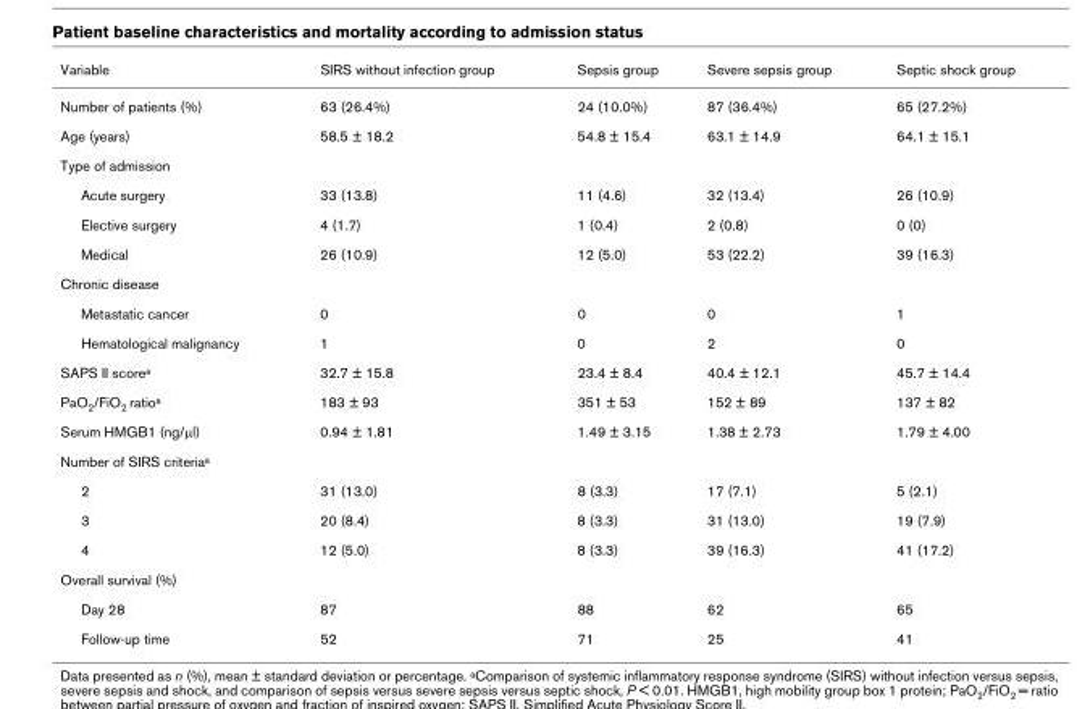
<table><thead><tr><td>Variable</td><td>SIRS without infection group</td><td>Sepsis group</td><td>Severe sepsis group</td><td>Septic shock group</td></tr></thead><tbody><tr><td>Number of patients (%)</td><td>63 (26.4%)</td><td>24 (10.0%)</td><td>87 (36.4%)</td><td>65 (27.2%)</td></tr><tr><td>Age (years)</td><td>58.5 ± 18.2</td><td>54.8 ± 15.4</td><td>63.1 ± 14.9</td><td>64.1 ± 15.1</td></tr><tr><td colspan="5">Type of admission</td></tr><tr><td>Acute surgery</td><td>33 (13.8)</td><td>11 (4.6)</td><td>32 (13.4)</td><td>26 (10.9)</td></tr><tr><td>Elective surgery</td><td>4 (1.7)</td><td>1 (0.4)</td><td>2 (0.8)</td><td>0 (0)</td></tr><tr><td>Medical</td><td>26 (10.9)</td><td>12 (5.0)</td><td>53 (22.2)</td><td>39 (16.3)</td></tr><tr><td colspan="5">Chronic disease</td></tr><tr><td>Metastatic cancer</td><td>0</td><td>0</td><td>0</td><td>1</td></tr><tr><td>Hematological malignancy</td><td>1</td><td>0</td><td>2</td><td>0</td></tr><tr><td>SAPS II score<sup>a</sup></td><td>32.7 ± 15.8</td><td>23.4 ± 8.4</td><td>40.4 ± 12.1</td><td>45.7 ± 14.4</td></tr><tr><td>PaO<sub>2</sub>/FiO<sub>2</sub> ratio<sup>a</sup></td><td>183 ± 93</td><td>351 ± 53</td><td>152 ± 89</td><td>137 ± 82</td></tr><tr><td>Serum HMGB1 (ng/μl)</td><td>0.94 ± 1.81</td><td>1.49 ± 3.15</td><td>1.38 ± 2.73</td><td>1.79 ± 4.00</td></tr><tr><td colspan="5">Number of SIRS criteria<sup>a</sup></td></tr><tr><td>2</td><td>31 (13.0)</td><td>8 (3.3)</td><td>17 (7.1)</td><td>5 (2.1)</td></tr><tr><td>3</td><td>20 (8.4)</td><td>8 (3.3)</td><td>31 (13.0)</td><td>19 (7.9)</td></tr><tr><td>4</td><td>12 (5.0)</td><td>8 (3.3)</td><td>39 (16.3)</td><td>41 (17.2)</td></tr><tr><td colspan="5">Overall survival (%)</td></tr><tr><td>Day 28</td><td>87</td><td>88</td><td>62</td><td>65</td></tr><tr><td>Follow-up time</td><td>52</td><td>71</td><td>25</td><td>41</td></tr></tbody></table>